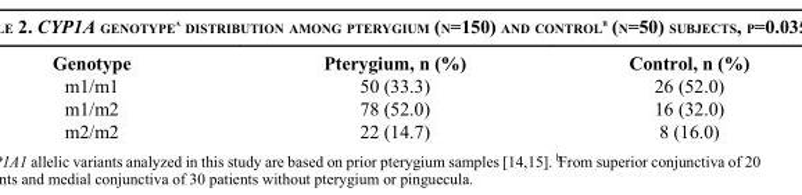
<table><thead><tr><td>Genotype</td><td>Pterygium, n (%)</td><td>Control, n (%)</td></tr></thead><tbody><tr><td>m1/m1</td><td>50 (33.3)</td><td>26 (52.0)</td></tr><tr><td>m1/m2</td><td>78 (52.0)</td><td>16 (32.0)</td></tr><tr><td>m2/m2</td><td>22 (14.7)</td><td>8 (16.0)</td></tr></tbody></table>